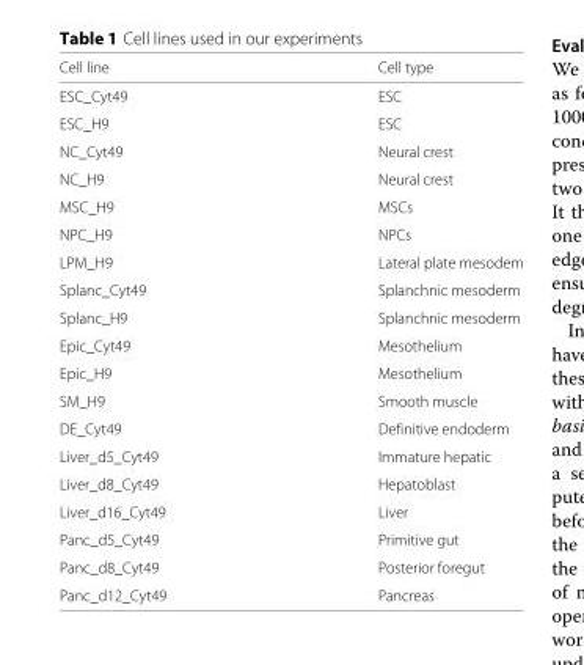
<table><thead><tr><td>Cell line</td><td>Cell type</td></tr></thead><tbody><tr><td>ESC_Cyt49</td><td>ESC</td></tr><tr><td>ESC_H9</td><td>ESC</td></tr><tr><td>NC_Cyt49</td><td>Neural crest</td></tr><tr><td>NC_H9</td><td>Neural crest</td></tr><tr><td>MSC_H9</td><td>MSCs</td></tr><tr><td>NPC_H9</td><td>NPCs</td></tr><tr><td>LPM_H9</td><td>Lateral plate mesodem</td></tr><tr><td>Splanc_Cyt49</td><td>Splanchnic mesoderm</td></tr><tr><td>Splanc_H9</td><td>Splanchnic mesoderm</td></tr><tr><td>Epic_Cyt49</td><td>Mesothelium</td></tr><tr><td>Epic_H9</td><td>Mesothelium</td></tr><tr><td>SM_H9</td><td>Smooth muscle</td></tr><tr><td>DE_Cyt49</td><td>Definitive endoderm</td></tr><tr><td>Liver_d5_Cyt49</td><td>Immature hepatic</td></tr><tr><td>Liver_d8_Cyt49</td><td>Hepatoblast</td></tr><tr><td>Liver_d16_Cyt49</td><td>Liver</td></tr><tr><td>Panc_d5_Cyt49</td><td>Primitive gut</td></tr><tr><td>Panc_d8_Cyt49</td><td>Posterior foregut</td></tr><tr><td>Panc_d12_Cyt49</td><td>Pancreas</td></tr></tbody></table>